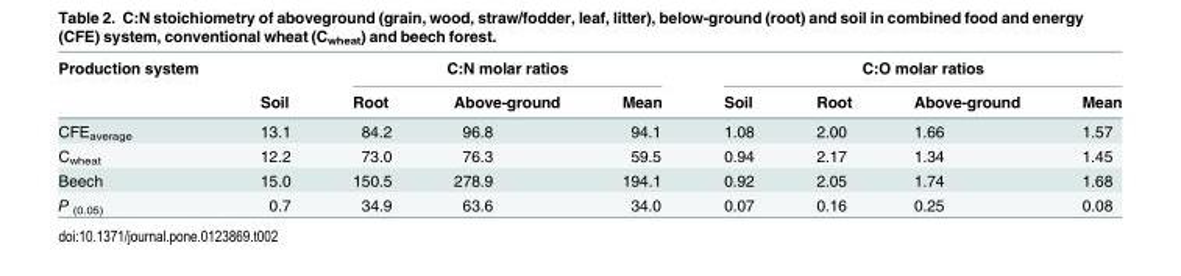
<table><thead><tr><td rowspan="2">Production system</td><td rowspan="2">Soil</td><td colspan="3">C:N molar ratios</td><td colspan="4">C:O molar ratios</td></tr><tr><td>Root</td><td>Above-ground</td><td>Mean</td><td>Soil</td><td>Root</td><td>Above-ground</td><td>Mean</td></tr></thead><tbody><tr><td>CFE<sub>average</sub></td><td>13.1</td><td>84.2</td><td>96.8</td><td>94.1</td><td>1.08</td><td>2.00</td><td>1.66</td><td>1.57</td></tr><tr><td>C<sub>wheat</sub></td><td>12.2</td><td>73.0</td><td>76.3</td><td>59.5</td><td>0.94</td><td>2.17</td><td>1.34</td><td>1.45</td></tr><tr><td>Beech</td><td>15.0</td><td>150.5</td><td>278.9</td><td>194.1</td><td>0.92</td><td>2.05</td><td>1.74</td><td>1.68</td></tr><tr><td>P <sub>(0.05)</sub></td><td>0.7</td><td>34.9</td><td>63.6</td><td>34.0</td><td>0.07</td><td>0.16</td><td>0.25</td><td>0.08</td></tr></tbody></table>